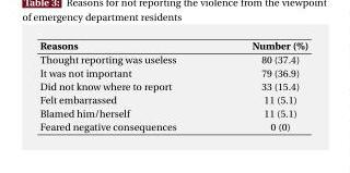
<table><thead><tr><td>Reasons</td><td>Number (%)</td></tr></thead><tbody><tr><td>Thought reporting was useless</td><td>80 (37.4)</td></tr><tr><td>It was not important</td><td>79 (36.9)</td></tr><tr><td>Did not know where to report</td><td>33 (15.4)</td></tr><tr><td>Felt embarrassed</td><td>11 (5.1)</td></tr><tr><td>Blamed him/herself</td><td>11 (5.1)</td></tr><tr><td>Feared negative consequences</td><td>0 (0)</td></tr></tbody></table>